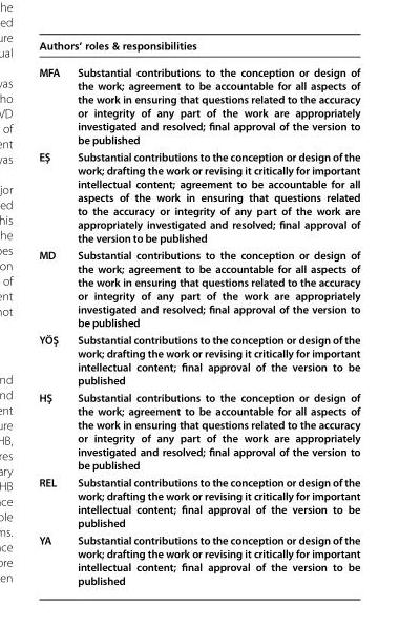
<table><thead><tr><td colspan="2">Authors’ roles &amp; responsibilities</td></tr><tr><td>MFA</td><td>Substantial contributions to the conception or design of the work; agreement to be accountable for all aspects of the work in ensuring that questions related to the accuracy or integrity of any part of the work are appropriately investigated and resolved; final approval of the version to be published</td></tr></thead><tbody><tr><td>EŞ</td><td>Substantial contributions to the conception or design of the work; drafting the work or revising it critically for important intellectual content; agreement to be accountable for all aspects of the work in ensuring that questions related to the accuracy or integrity of any part of the work are appropriately investigated and resolved; final approval of the version to be published</td></tr><tr><td>MD</td><td>Substantial contributions to the conception or design of the work; agreement to be accountable for all aspects of the work in ensuring that questions related to the accuracy or integrity of any part of the work are appropriately investigated and resolved; final approval of the version to be published</td></tr><tr><td>YÖŞ</td><td>Substantial contributions to the conception or design of the work; drafting the work or revising it critically for important intellectual content; final approval of the version to be published</td></tr><tr><td>HŞ</td><td>Substantial contributions to the conception or design of the work; agreement to be accountable for all aspects of the work in ensuring that questions related to the accuracy or integrity of any part of the work are appropriately investigated and resolved; final approval of the version to be published</td></tr><tr><td>REL</td><td>Substantial contributions to the conception or design of the work; drafting the work or revising it critically for important intellectual content; final approval of the version to be published</td></tr><tr><td>YA</td><td>Substantial contributions to the conception or design of the work; drafting the work or revising it critically for important intellectual content; final approval of the version to be published</td></tr></tbody></table>